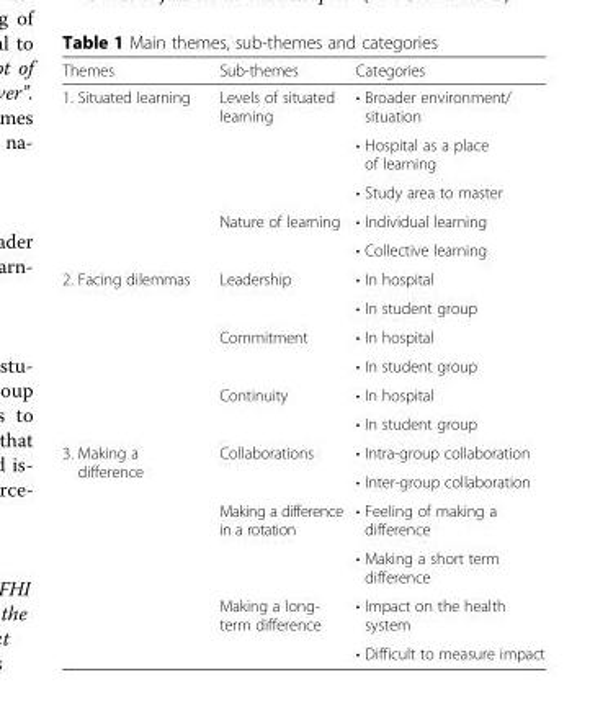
<table><thead><tr><td>Themes</td><td>Sub-themes</td><td>Categories</td></tr></thead><tbody><tr><td rowspan="5">1. Situated learning</td><td rowspan="3">Levels of situated learning</td><td>• Broader environment/ situation</td></tr><tr><td>• Hospital as a place of learning</td></tr><tr><td>• Study area to master</td></tr><tr><td rowspan="2">Nature of learning</td><td>• Individual learning</td></tr><tr><td>• Collective learning</td></tr><tr><td rowspan="6">2. Facing dilemmas</td><td rowspan="2">Leadership</td><td>• In hospital</td></tr><tr><td>• In student group</td></tr><tr><td rowspan="2">Commitment</td><td>• In hospital</td></tr><tr><td>• In student group</td></tr><tr><td rowspan="2">Continuity</td><td>• In hospital</td></tr><tr><td>• In student group</td></tr><tr><td rowspan="6">3. Making a difference</td><td rowspan="2">Collaborations</td><td>• Intra-group collaboration</td></tr><tr><td>• Inter-group collaboration</td></tr><tr><td rowspan="2">Making a difference in a rotation</td><td>• Feeling of making a difference</td></tr><tr><td>• Making a short term difference</td></tr><tr><td rowspan="2">Making a long- term difference</td><td>• Impact on the health system</td></tr><tr><td>• Difficult to measure impact</td></tr></tbody></table>